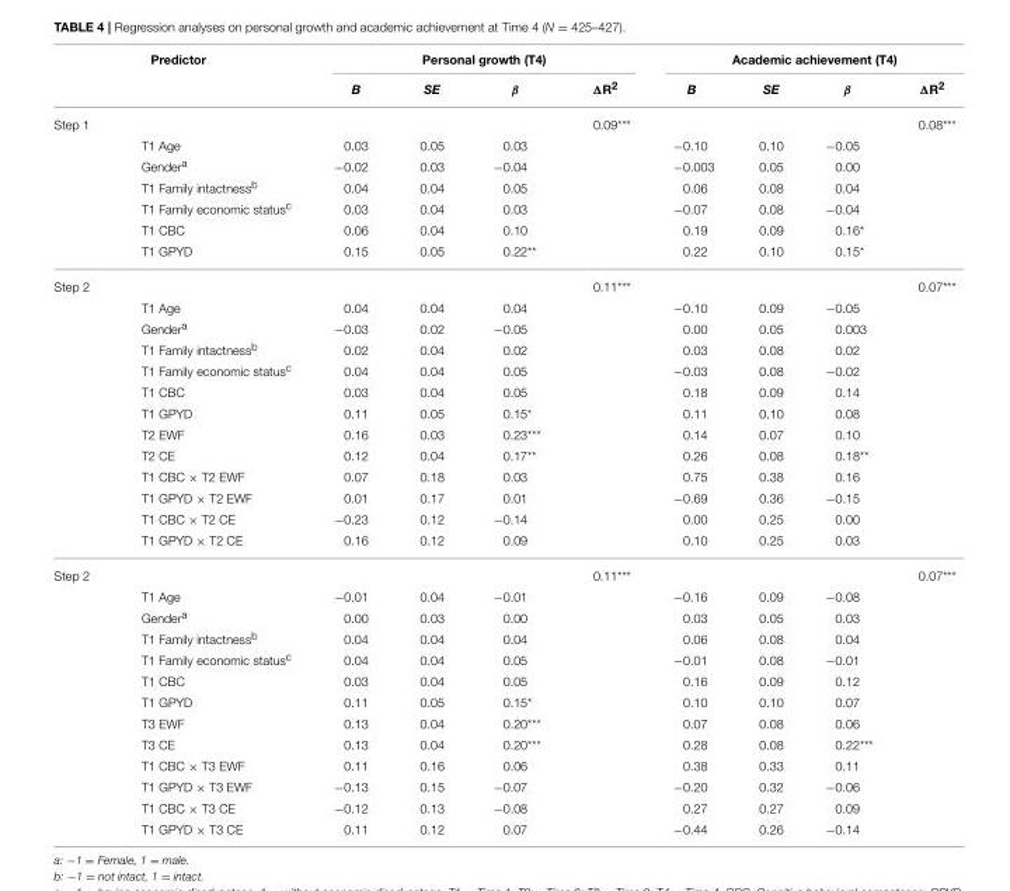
<table><thead><tr><td colspan="2">Predictor</td><td colspan="4">Personal growth (T4)</td><td colspan="4">Academic achievement (T4)</td></tr><tr><td></td><td></td><td>B</td><td>SE</td><td>β</td><td>ΔR<sup>2</sup></td><td>B</td><td>SE</td><td>β</td><td>ΔR<sup>2</sup></td></tr></thead><tbody><tr><td rowspan="7">Step 1</td><td></td><td></td><td></td><td></td><td>0.09***</td><td></td><td></td><td></td><td>0.08***</td></tr><tr><td>T1 Age</td><td>0.03</td><td>0.05</td><td>0.03</td><td></td><td>−0.10</td><td>0.10</td><td>−0.05</td><td></td></tr><tr><td>Gender<sup>a</sup></td><td>−0.02</td><td>0.03</td><td>−0.04</td><td></td><td>−0.003</td><td>0.05</td><td>0.00</td><td></td></tr><tr><td>T1 Family intactness<sup>b</sup></td><td>0.04</td><td>0.04</td><td>0.05</td><td></td><td>0.06</td><td>0.08</td><td>0.04</td><td></td></tr><tr><td>T1 Family economic status<sup>c</sup></td><td>0.03</td><td>0.04</td><td>0.03</td><td></td><td>−0.07</td><td>0.08</td><td>−0.04</td><td></td></tr><tr><td>T1 CBC</td><td>0.06</td><td>0.04</td><td>0.10</td><td></td><td>0.19</td><td>0.09</td><td>0.16*</td><td></td></tr><tr><td>T1 GPYD</td><td>0.15</td><td>0.05</td><td>0.22**</td><td></td><td>0.22</td><td>0.10</td><td>0.15*</td><td></td></tr><tr><td rowspan="13">Step 2</td><td></td><td></td><td></td><td></td><td>0.11***</td><td></td><td></td><td></td><td>0.07***</td></tr><tr><td>T1 Age</td><td>0.04</td><td>0.04</td><td>0.04</td><td></td><td>−0.10</td><td>0.09</td><td>−0.05</td><td></td></tr><tr><td>Gender<sup>a</sup></td><td>−0.03</td><td>0.02</td><td>−0.05</td><td></td><td>0.00</td><td>0.05</td><td>0.003</td><td></td></tr><tr><td>T1 Family intactness<sup>b</sup></td><td>0.02</td><td>0.04</td><td>0.02</td><td></td><td>0.03</td><td>0.08</td><td>0.02</td><td></td></tr><tr><td>T1 Family economic status<sup>c</sup></td><td>0.04</td><td>0.04</td><td>0.05</td><td></td><td>−0.03</td><td>0.08</td><td>−0.02</td><td></td></tr><tr><td>T1 CBC</td><td>0.03</td><td>0.04</td><td>0.05</td><td></td><td>0.18</td><td>0.09</td><td>0.14</td><td></td></tr><tr><td>T1 GPYD</td><td>0.11</td><td>0.05</td><td>0.15*</td><td></td><td>0.11</td><td>0.10</td><td>0.08</td><td></td></tr><tr><td>T2 EWF</td><td>0.16</td><td>0.03</td><td>0.23***</td><td></td><td>0.14</td><td>0.07</td><td>0.10</td><td></td></tr><tr><td>T2 CE</td><td>0.12</td><td>0.04</td><td>0.17**</td><td></td><td>0.26</td><td>0.08</td><td>0.18**</td><td></td></tr><tr><td>T1 CBC × T2 EWF</td><td>0.07</td><td>0.18</td><td>0.03</td><td></td><td>0.75</td><td>0.38</td><td>0.16</td><td></td></tr><tr><td>T1 GPYD × T2 EWF</td><td>0.01</td><td>0.17</td><td>0.01</td><td></td><td>−0.69</td><td>0.36</td><td>−0.15</td><td></td></tr><tr><td>T1 CBC × T2 CE</td><td>−0.23</td><td>0.12</td><td>−0.14</td><td></td><td>0.00</td><td>0.25</td><td>0.00</td><td></td></tr><tr><td>T1 GPYD × T2 CE</td><td>0.16</td><td>0.12</td><td>0.09</td><td></td><td>0.10</td><td>0.25</td><td>0.03</td><td></td></tr><tr><td rowspan="13">Step 2</td><td></td><td></td><td></td><td></td><td>0.11***</td><td></td><td></td><td></td><td>0.07***</td></tr><tr><td>T1 Age</td><td>−0.01</td><td>0.04</td><td>−0.01</td><td></td><td>−0.16</td><td>0.09</td><td>−0.08</td><td></td></tr><tr><td>Gender<sup>a</sup></td><td>0.00</td><td>0.03</td><td>0.00</td><td></td><td>0.03</td><td>0.05</td><td>0.03</td><td></td></tr><tr><td>T1 Family intactness<sup>b</sup></td><td>0.04</td><td>0.04</td><td>0.04</td><td></td><td>0.06</td><td>0.08</td><td>0.04</td><td></td></tr><tr><td>T1 Family economic status<sup>c</sup></td><td>0.04</td><td>0.04</td><td>0.05</td><td></td><td>−0.01</td><td>0.08</td><td>−0.01</td><td></td></tr><tr><td>T1 CBC</td><td>0.03</td><td>0.04</td><td>0.05</td><td></td><td>0.16</td><td>0.09</td><td>0.12</td><td></td></tr><tr><td>T1 GPYD</td><td>0.11</td><td>0.05</td><td>0.15*</td><td></td><td>0.10</td><td>0.10</td><td>0.07</td><td></td></tr><tr><td>T3 EWF</td><td>0.13</td><td>0.04</td><td>0.20***</td><td></td><td>0.07</td><td>0.08</td><td>0.06</td><td></td></tr><tr><td>T3 CE</td><td>0.13</td><td>0.04</td><td>0.20***</td><td></td><td>0.28</td><td>0.08</td><td>0.22***</td><td></td></tr><tr><td>T1 CBC × T3 EWF</td><td>0.11</td><td>0.16</td><td>0.06</td><td></td><td>0.38</td><td>0.33</td><td>0.11</td><td></td></tr><tr><td>T1 GPYD × T3 EWF</td><td>−0.13</td><td>0.15</td><td>−0.07</td><td></td><td>−0.20</td><td>0.32</td><td>−0.06</td><td></td></tr><tr><td>T1 CBC × T3 CE</td><td>−0.12</td><td>0.13</td><td>−0.08</td><td></td><td>0.27</td><td>0.27</td><td>0.09</td><td></td></tr><tr><td>T1 GPYD × T3 CE</td><td>0.11</td><td>0.12</td><td>0.07</td><td></td><td>−0.44</td><td>0.26</td><td>−0.14</td><td></td></tr></tbody></table>